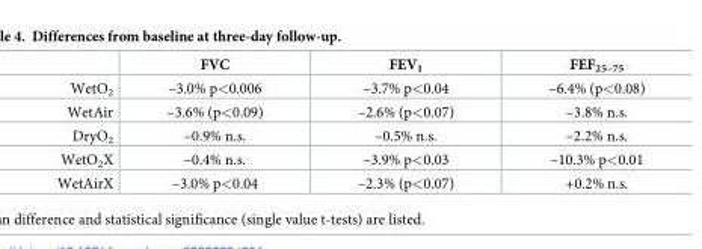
<table><thead><tr><td></td><td>FVC</td><td>FEV<sub>1</sub></td><td>FEF<sub>25–75</sub></td></tr></thead><tbody><tr><td>WetO<sub>2</sub></td><td>–3.0% p&lt;0.006</td><td>–3.7% p&lt;0.04</td><td>–6.4% (p&lt;0.08)</td></tr><tr><td>WetAir</td><td>–3.6% (p&lt;0.09)</td><td>–2.6% (p&lt;0.07)</td><td>–3.8% n.s.</td></tr><tr><td>DryO<sub>2</sub></td><td>–0.9% n.s.</td><td>–0.5% n.s.</td><td>–2.2% n.s.</td></tr><tr><td>WetO<sub>2</sub>X</td><td>–0.4% n.s.</td><td>–3.9% p&lt;0.03</td><td>–10.3% p&lt;0.01</td></tr><tr><td>WetAirX</td><td>–3.0% p&lt;0.04</td><td>–2.3% (p&lt;0.07)</td><td>+0.2% n.s.</td></tr></tbody></table>